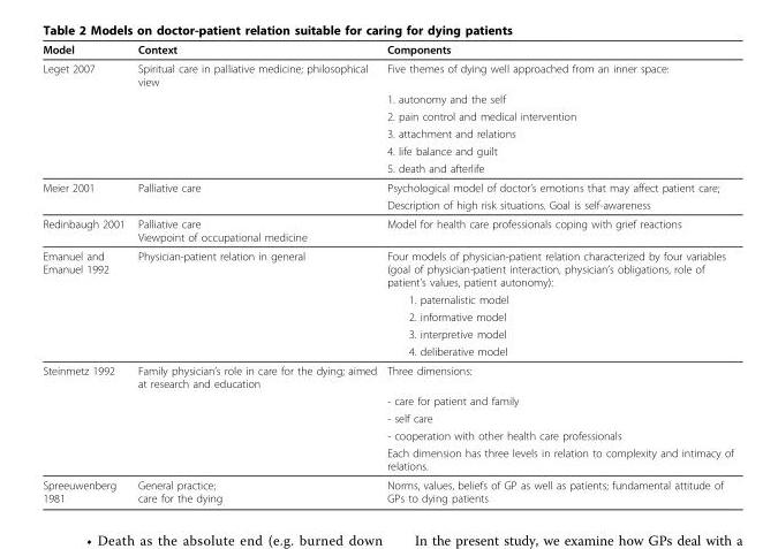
<table><thead><tr><td>Model</td><td>Context</td><td>Components</td></tr></thead><tbody><tr><td rowspan="6">Leget 2007</td><td>Spiritual care in palliative medicine; philosophical view</td><td>Five themes of dying well approached from an inner space:</td></tr><tr><td></td><td>1. autonomy and the self</td></tr><tr><td></td><td>2. pain control and medical intervention</td></tr><tr><td></td><td>3. attachment and relations</td></tr><tr><td></td><td>4. life balance and guilt</td></tr><tr><td></td><td>5. death and afterlife</td></tr><tr><td rowspan="2">Meier 2001</td><td>Palliative care</td><td>Psychological model of doctor’s emotions that may affect patient care;</td></tr><tr><td></td><td>Description of high risk situations. Goal is self-awareness</td></tr><tr><td>Redinbaugh 2001</td><td>Palliative care Viewpoint of occupational medicine</td><td>Model for health care professionals coping with grief reactions</td></tr><tr><td rowspan="5">Emanuel and Emanuel 1992</td><td>Physician-patient relation in general</td><td>Four models of physician-patient relation characterized by four variables (goal of physician-patient interaction, physician’s obligations, role of patient’s values, patient autonomy):</td></tr><tr><td></td><td>1. paternalistic model</td></tr><tr><td></td><td>2. informative model</td></tr><tr><td></td><td>3. interpretive model</td></tr><tr><td></td><td>4. deliberative model</td></tr><tr><td rowspan="5">Steinmetz 1992</td><td>Family physician’s role in care for the dying; aimed at research and education</td><td>Three dimensions:</td></tr><tr><td></td><td>- care for patient and family</td></tr><tr><td></td><td>- self care</td></tr><tr><td></td><td>- cooperation with other health care professionals</td></tr><tr><td></td><td>Each dimension has three levels in relation to complexity and intimacy of relations.</td></tr><tr><td>Spreeuwenberg 1981</td><td>General practice; care for the dying</td><td>Norms, values, beliefs of GP as well as patients; fundamental attitude of GPs to dying patients</td></tr></tbody></table>